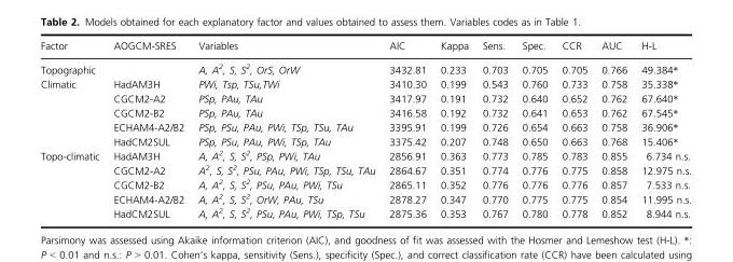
<table><thead><tr><td>Factor</td><td>AOGCM-SRES</td><td>Variables</td><td>AIC</td><td>Kappa</td><td>Sens.</td><td>Spec.</td><td>CCR</td><td>AUC</td><td>H-L</td></tr></thead><tbody><tr><td>Topographic</td><td></td><td>A, A<sup>2</sup>, S, S<sup>2</sup>, OrS, OrW</td><td>3432.81</td><td>0.233</td><td>0.703</td><td>0.705</td><td>0.705</td><td>0.766</td><td>49.384*</td></tr><tr><td rowspan="5">Climatic</td><td>HadAM3H</td><td>PWi, Tsp, TSu,TWi</td><td>3410.30</td><td>0.199</td><td>0.543</td><td>0.760</td><td>0.733</td><td>0.758</td><td>35.338*</td></tr><tr><td>CGCM2-A2</td><td>PSp, PAu, TAu</td><td>3417.97</td><td>0.191</td><td>0.732</td><td>0.640</td><td>0.652</td><td>0.762</td><td>67.640*</td></tr><tr><td>CGCM2-B2</td><td>PSp, PAu, TAu</td><td>3416.58</td><td>0.192</td><td>0.732</td><td>0.641</td><td>0.653</td><td>0.762</td><td>67.545*</td></tr><tr><td>ECHAM4-A2/B2</td><td>PSp, PSu, PAu, PWi, TSp, TSu, TAu</td><td>3395.91</td><td>0.199</td><td>0.726</td><td>0.654</td><td>0.663</td><td>0.758</td><td>36.906*</td></tr><tr><td>HadCM2SUL</td><td>PSp, PSu, PAu, PWi, TSp, TAu</td><td>3375.42</td><td>0.207</td><td>0.748</td><td>0.650</td><td>0.663</td><td>0.768</td><td>15.406*</td></tr><tr><td rowspan="5">Topo-climatic</td><td>HadAM3H</td><td>A, A<sup>2</sup>, S, S<sup>2</sup>, PSp, PWi, TAu</td><td>2856.91</td><td>0.363</td><td>0.773</td><td>0.785</td><td>0.783</td><td>0.855</td><td>6.734 n.s.</td></tr><tr><td>CGCM2-A2</td><td>A<sup>2</sup>, S, S<sup>2</sup>, PSu, PAu, PWi, TSp, TSu, TAu</td><td>2864.67</td><td>0.351</td><td>0.774</td><td>0.776</td><td>0.775</td><td>0.858</td><td>12.975 n.s.</td></tr><tr><td>CGCM2-B2</td><td>A, A<sup>2</sup>, S, S<sup>2</sup>, PSu, PAu, PWi, TSu</td><td>2865.11</td><td>0.352</td><td>0.776</td><td>0.776</td><td>0.776</td><td>0.857</td><td>7.533 n.s.</td></tr><tr><td>ECHAM4-A2/B2</td><td>A, A<sup>2</sup>, S, S<sup>2</sup>, OrW, PAu, TSu</td><td>2878.27</td><td>0.347</td><td>0.770</td><td>0.775</td><td>0.775</td><td>0.854</td><td>11.995 n.s.</td></tr><tr><td>HadCM2SUL</td><td>A, A<sup>2</sup>, S, S<sup>2</sup>, PSu, PAu, PWi, TSp, TSu</td><td>2875.36</td><td>0.353</td><td>0.767</td><td>0.780</td><td>0.778</td><td>0.852</td><td>8.944 n.s.</td></tr></tbody></table>